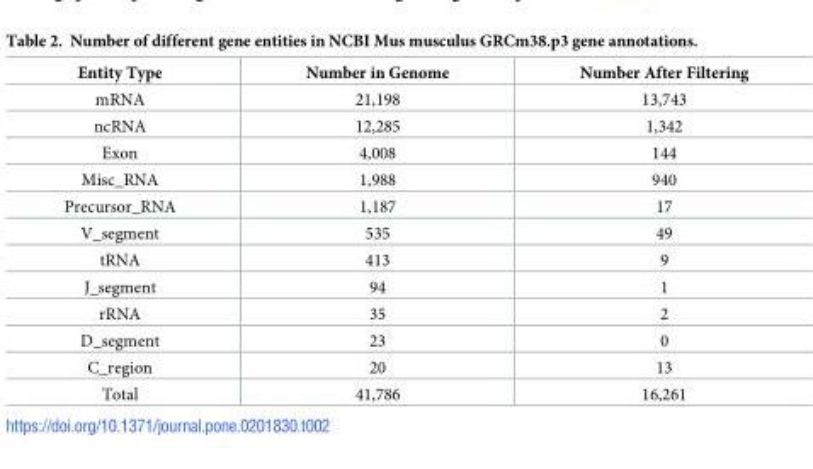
<table><thead><tr><td>Entity Type</td><td>Number in Genome</td><td>Number After Filtering</td></tr></thead><tbody><tr><td>mRNA</td><td>21,198</td><td>13,743</td></tr><tr><td>ncRNA</td><td>12,285</td><td>1,342</td></tr><tr><td>Exon</td><td>4,008</td><td>144</td></tr><tr><td>Misc_RNA</td><td>1,988</td><td>940</td></tr><tr><td>Precursor_RNA</td><td>1,187</td><td>17</td></tr><tr><td>V_segment</td><td>535</td><td>49</td></tr><tr><td>tRNA</td><td>413</td><td>9</td></tr><tr><td>J_segment</td><td>94</td><td>1</td></tr><tr><td>rRNA</td><td>35</td><td>2</td></tr><tr><td>D_segment</td><td>23</td><td>0</td></tr><tr><td>C_region</td><td>20</td><td>13</td></tr><tr><td>Total</td><td>41,786</td><td>16,261</td></tr></tbody></table>